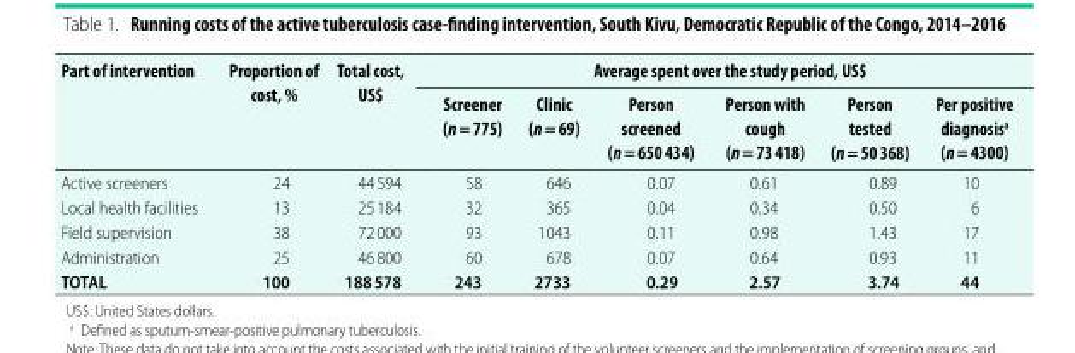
<table><thead><tr><td rowspan="2">Part of intervention</td><td rowspan="2">Proportion of cost, %</td><td rowspan="2">Total cost, US$</td><td colspan="6">Average spent over the study period, US$</td></tr><tr><td>Screener (n = 775)</td><td>Clinic (n = 69)</td><td>Person screened (n = 650 434)</td><td>Person with cough (n = 73 418)</td><td>Person tested (n = 50 368)</td><td>Per positive diagnosis<sup>a</sup> (n = 4300)</td></tr></thead><tbody><tr><td>Active screeners</td><td>24</td><td>44 594</td><td>58</td><td>646</td><td>0.07</td><td>0.61</td><td>0.89</td><td>10</td></tr><tr><td>Local health facilities</td><td>13</td><td>25 184</td><td>32</td><td>365</td><td>0.04</td><td>0.34</td><td>0.50</td><td>6</td></tr><tr><td>Field supervision</td><td>38</td><td>72 000</td><td>93</td><td>1043</td><td>0.11</td><td>0.98</td><td>1.43</td><td>17</td></tr><tr><td>Administration</td><td>25</td><td>46 800</td><td>60</td><td>678</td><td>0.07</td><td>0.64</td><td>0.93</td><td>11</td></tr><tr><td>TOTAL</td><td>100</td><td>188 578</td><td>243</td><td>2733</td><td>0.29</td><td>2.57</td><td>3.74</td><td>44</td></tr></tbody></table>